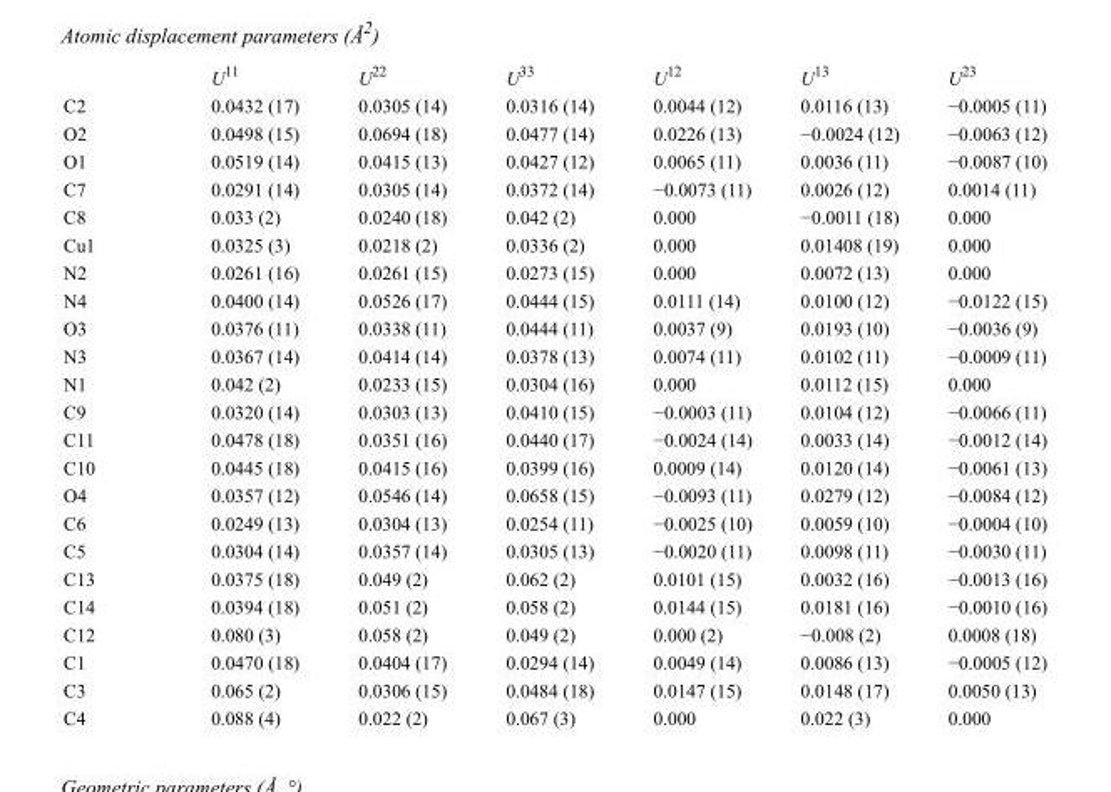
<table><thead><tr><td></td><td>U<sup>11</sup></td><td>U<sup>22</sup></td><td>U<sup>33</sup></td><td>U<sup>12</sup></td><td>U<sup>13</sup></td><td>U<sup>23</sup></td></tr></thead><tbody><tr><td>C2</td><td>0.0432 (17)</td><td>0.0305 (14)</td><td>0.0316 (14)</td><td>0.0044 (12)</td><td>0.0116 (13)</td><td>−0.0005 (11)</td></tr><tr><td>O2</td><td>0.0498 (15)</td><td>0.0694 (18)</td><td>0.0477 (14)</td><td>0.0226 (13)</td><td>−0.0024 (12)</td><td>−0.0063 (12)</td></tr><tr><td>O1</td><td>0.0519 (14)</td><td>0.0415 (13)</td><td>0.0427 (12)</td><td>0.0065 (11)</td><td>0.0036 (11)</td><td>−0.0087 (10)</td></tr><tr><td>C7</td><td>0.0291 (14)</td><td>0.0305 (14)</td><td>0.0372 (14)</td><td>−0.0073 (11)</td><td>0.0026 (12)</td><td>0.0014 (11)</td></tr><tr><td>C8</td><td>0.033 (2)</td><td>0.0240 (18)</td><td>0.042 (2)</td><td>0.000</td><td>−0.0011 (18)</td><td>0.000</td></tr><tr><td>Cu1</td><td>0.0325 (3)</td><td>0.0218 (2)</td><td>0.0336 (2)</td><td>0.000</td><td>0.01408 (19)</td><td>0.000</td></tr><tr><td>N2</td><td>0.0261 (16)</td><td>0.0261 (15)</td><td>0.0273 (15)</td><td>0.000</td><td>0.0072 (13)</td><td>0.000</td></tr><tr><td>N4</td><td>0.0400 (14)</td><td>0.0526 (17)</td><td>0.0444 (15)</td><td>0.0111 (14)</td><td>0.0100 (12)</td><td>−0.0122 (15)</td></tr><tr><td>O3</td><td>0.0376 (11)</td><td>0.0338 (11)</td><td>0.0444 (11)</td><td>0.0037 (9)</td><td>0.0193 (10)</td><td>−0.0036 (9)</td></tr><tr><td>N3</td><td>0.0367 (14)</td><td>0.0414 (14)</td><td>0.0378 (13)</td><td>0.0074 (11)</td><td>0.0102 (11)</td><td>−0.0009 (11)</td></tr><tr><td>N1</td><td>0.042 (2)</td><td>0.0233 (15)</td><td>0.0304 (16)</td><td>0.000</td><td>0.0112 (15)</td><td>0.000</td></tr><tr><td>C9</td><td>0.0320 (14)</td><td>0.0303 (13)</td><td>0.0410 (15)</td><td>−0.0003 (11)</td><td>0.0104 (12)</td><td>−0.0066 (11)</td></tr><tr><td>C11</td><td>0.0478 (18)</td><td>0.0351 (16)</td><td>0.0440 (17)</td><td>−0.0024 (14)</td><td>0.0033 (14)</td><td>−0.0012 (14)</td></tr><tr><td>C10</td><td>0.0445 (18)</td><td>0.0415 (16)</td><td>0.0399 (16)</td><td>0.0009 (14)</td><td>0.0120 (14)</td><td>−0.0061 (13)</td></tr><tr><td>O4</td><td>0.0357 (12)</td><td>0.0546 (14)</td><td>0.0658 (15)</td><td>−0.0093 (11)</td><td>0.0279 (12)</td><td>−0.0084 (12)</td></tr><tr><td>C6</td><td>0.0249 (13)</td><td>0.0304 (13)</td><td>0.0254 (11)</td><td>−0.0025 (10)</td><td>0.0059 (10)</td><td>−0.0004 (10)</td></tr><tr><td>C5</td><td>0.0304 (14)</td><td>0.0357 (14)</td><td>0.0305 (13)</td><td>−0.0020 (11)</td><td>0.0098 (11)</td><td>−0.0030 (11)</td></tr><tr><td>C13</td><td>0.0375 (18)</td><td>0.049 (2)</td><td>0.062 (2)</td><td>0.0101 (15)</td><td>0.0032 (16)</td><td>−0.0013 (16)</td></tr><tr><td>C14</td><td>0.0394 (18)</td><td>0.051 (2)</td><td>0.058 (2)</td><td>0.0144 (15)</td><td>0.0181 (16)</td><td>−0.0010 (16)</td></tr><tr><td>C12</td><td>0.080 (3)</td><td>0.058 (2)</td><td>0.049 (2)</td><td>0.000 (2)</td><td>−0.008 (2)</td><td>0.0008 (18)</td></tr><tr><td>C1</td><td>0.0470 (18)</td><td>0.0404 (17)</td><td>0.0294 (14)</td><td>0.0049 (14)</td><td>0.0086 (13)</td><td>−0.0005 (12)</td></tr><tr><td>C3</td><td>0.065 (2)</td><td>0.0306 (15)</td><td>0.0484 (18)</td><td>0.0147 (15)</td><td>0.0148 (17)</td><td>0.0050 (13)</td></tr><tr><td>C4</td><td>0.088 (4)</td><td>0.022 (2)</td><td>0.067 (3)</td><td>0.000</td><td>0.022 (3)</td><td>0.000</td></tr></tbody></table>